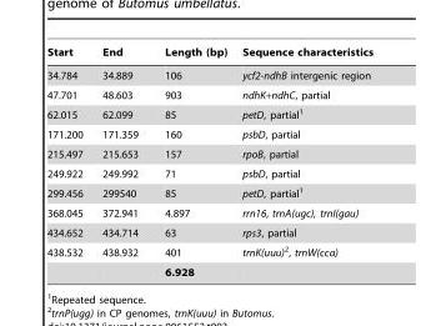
<table><thead><tr><td>Start</td><td>End</td><td>Length (bp)</td><td>Sequence characteristics</td></tr></thead><tbody><tr><td>34.784</td><td>34.889</td><td>106</td><td>ycf2-ndhB intergenic region</td></tr><tr><td>47.701</td><td>48.603</td><td>903</td><td>ndhK+ndhC, partial</td></tr><tr><td>62.015</td><td>62.099</td><td>85</td><td>petD, partial<sup>1</sup></td></tr><tr><td>171.200</td><td>171.359</td><td>160</td><td>psbD, partial</td></tr><tr><td>215.497</td><td>215.653</td><td>157</td><td>rpoB, partial</td></tr><tr><td>249.922</td><td>249.992</td><td>71</td><td>psbD, partial</td></tr><tr><td>299.456</td><td>299540</td><td>85</td><td>petD, partial<sup>1</sup></td></tr><tr><td>368.045</td><td>372.941</td><td>4.897</td><td>rrn16, trnA(ugc), trnI(gau)</td></tr><tr><td>434.652</td><td>434.714</td><td>63</td><td>rps3, partial</td></tr><tr><td rowspan="2">438.532</td><td>438.932</td><td>401</td><td>trnK(uuu)2, trnW(cca)</td></tr><tr><td></td><td>6.928</td><td></td></tr></tbody></table>